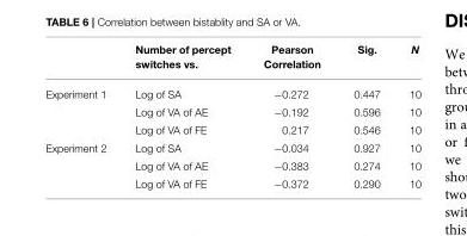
<table><thead><tr><td></td><td>Number of percept switches vs.</td><td>Pearson Correlation</td><td>Sig.</td><td>N</td></tr></thead><tbody><tr><td rowspan="3">Experiment 1</td><td>Log of SA</td><td>−0.272</td><td>0.447</td><td>10</td></tr><tr><td>Log of VA of AE</td><td>−0.192</td><td>0.596</td><td>10</td></tr><tr><td>Log of VA of FE</td><td>0.217</td><td>0.546</td><td>10</td></tr><tr><td rowspan="3">Experiment 2</td><td>Log of SA</td><td>−0.034</td><td>0.927</td><td>10</td></tr><tr><td>Log of VA of AE</td><td>−0.383</td><td>0.274</td><td>10</td></tr><tr><td>Log of VA of FE</td><td>−0.372</td><td>0.290</td><td>10</td></tr></tbody></table>